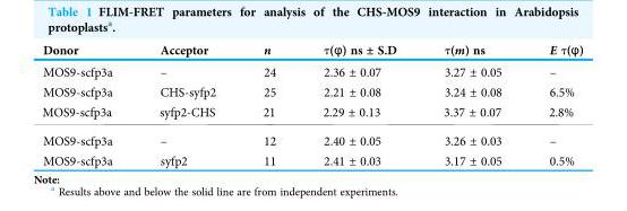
<table><thead><tr><td>Donor</td><td>Acceptor</td><td>n</td><td>τ(φ) ns ± S.D</td><td>τ(m) ns</td><td>E τ(φ)</td></tr></thead><tbody><tr><td>MOS9-scfp3a</td><td>–</td><td>24</td><td>2.36 ± 0.07</td><td>3.27 ± 0.05</td><td>–</td></tr><tr><td>MOS9-scfp3a</td><td>CHS-syfp2</td><td>25</td><td>2.21 ± 0.08</td><td>3.24 ± 0.08</td><td>6.5%</td></tr><tr><td>MOS9-scfp3a</td><td>syfp2-CHS</td><td>21</td><td>2.29 ± 0.13</td><td>3.37 ± 0.07</td><td>2.8%</td></tr><tr><td>MOS9-scfp3a</td><td>–</td><td>12</td><td>2.40 ± 0.05</td><td>3.26 ± 0.03</td><td>–</td></tr><tr><td>MOS9-scfp3a</td><td>syfp2</td><td>11</td><td>2.41 ± 0.03</td><td>3.17 ± 0.05</td><td>0.5%</td></tr></tbody></table>